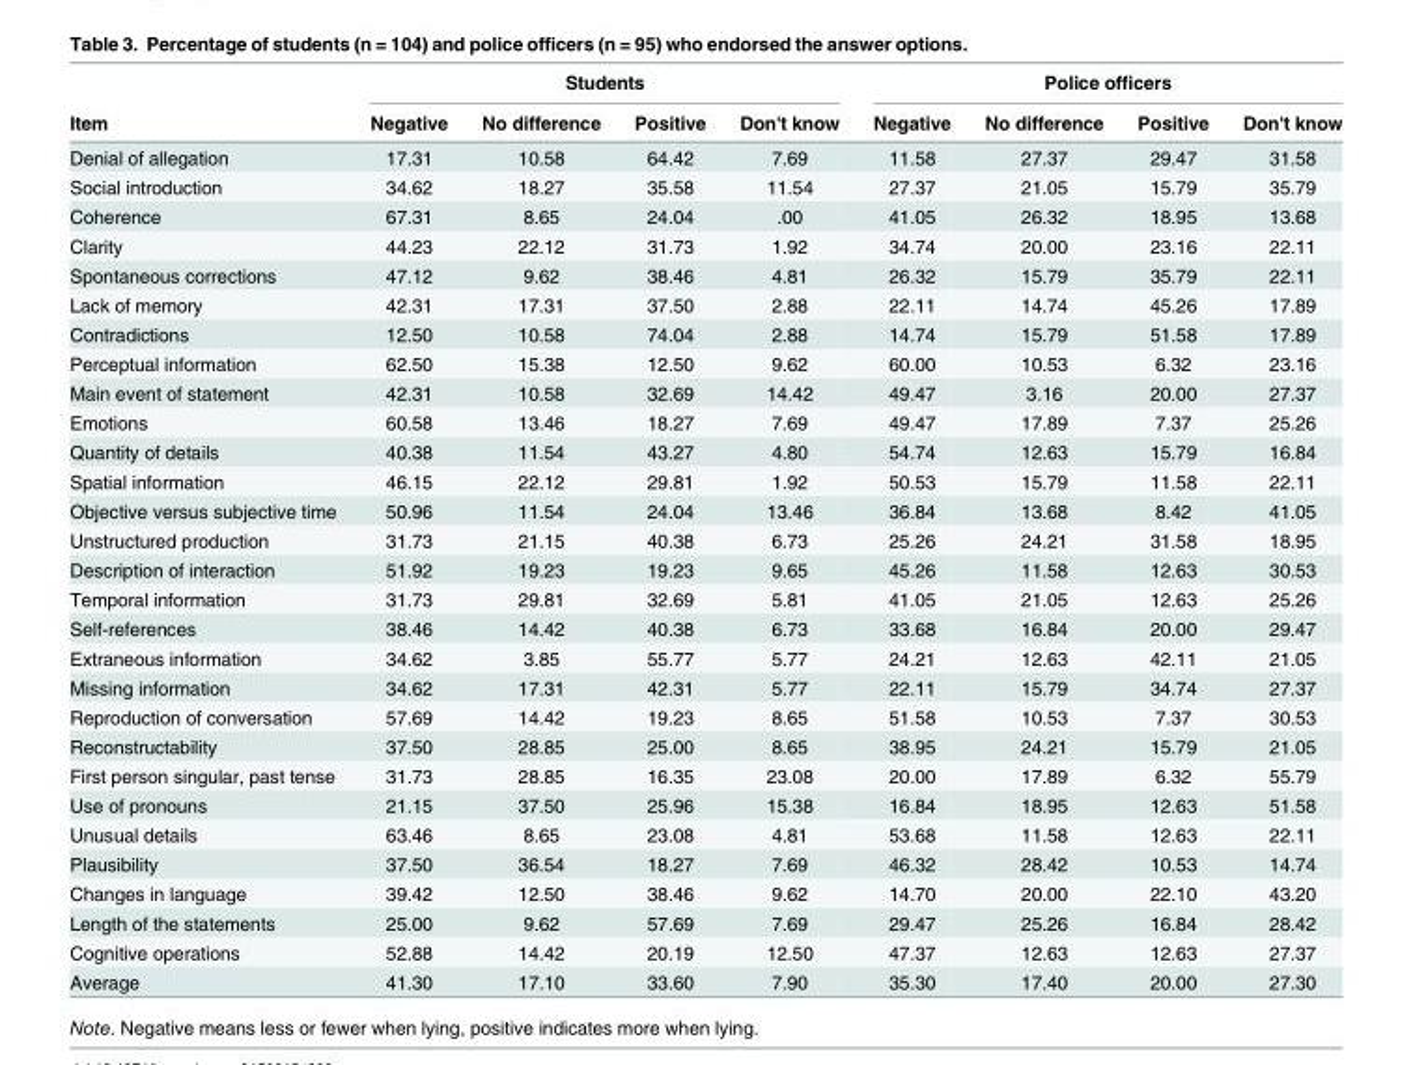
<table><thead><tr><td rowspan="2">Item</td><td colspan="4">Students</td><td colspan="4">Police officers</td></tr><tr><td>Negative</td><td>No difference</td><td>Positive</td><td>Don&#x27;t know</td><td>Negative</td><td>No difference</td><td>Positive</td><td>Don&#x27;t know</td></tr></thead><tbody><tr><td>Denial of allegation</td><td>17.31</td><td>10.58</td><td>64.42</td><td>7.69</td><td>11.58</td><td>27.37</td><td>29.47</td><td>31.58</td></tr><tr><td>Social introduction</td><td>34.62</td><td>18.27</td><td>35.58</td><td>11.54</td><td>27.37</td><td>21.05</td><td>15.79</td><td>35.79</td></tr><tr><td>Coherence</td><td>67.31</td><td>8.65</td><td>24.04</td><td>.00</td><td>41.05</td><td>26.32</td><td>18.95</td><td>13.68</td></tr><tr><td>Clarity</td><td>44.23</td><td>22.12</td><td>31.73</td><td>1.92</td><td>34.74</td><td>20.00</td><td>23.16</td><td>22.11</td></tr><tr><td>Spontaneous corrections</td><td>47.12</td><td>9.62</td><td>38.46</td><td>4.81</td><td>26.32</td><td>15.79</td><td>35.79</td><td>22.11</td></tr><tr><td>Lack of memory</td><td>42.31</td><td>17.31</td><td>37.50</td><td>2.88</td><td>22.11</td><td>14.74</td><td>45.26</td><td>17.89</td></tr><tr><td>Contradictions</td><td>12.50</td><td>10.58</td><td>74.04</td><td>2.88</td><td>14.74</td><td>15.79</td><td>51.58</td><td>17.89</td></tr><tr><td>Perceptual information</td><td>62.50</td><td>15.38</td><td>12.50</td><td>9.62</td><td>60.00</td><td>10.53</td><td>6.32</td><td>23.16</td></tr><tr><td>Main event of statement</td><td>42.31</td><td>10.58</td><td>32.69</td><td>14.42</td><td>49.47</td><td>3.16</td><td>20.00</td><td>27.37</td></tr><tr><td>Emotions</td><td>60.58</td><td>13.46</td><td>18.27</td><td>7.69</td><td>49.47</td><td>17.89</td><td>7.37</td><td>25.26</td></tr><tr><td>Quantity of details</td><td>40.38</td><td>11.54</td><td>43.27</td><td>4.80</td><td>54.74</td><td>12.63</td><td>15.79</td><td>16.84</td></tr><tr><td>Spatial information</td><td>46.15</td><td>22.12</td><td>29.81</td><td>1.92</td><td>50.53</td><td>15.79</td><td>11.58</td><td>22.11</td></tr><tr><td>Objective versus subjective time</td><td>50.96</td><td>11.54</td><td>24.04</td><td>13.46</td><td>36.84</td><td>13.68</td><td>8.42</td><td>41.05</td></tr><tr><td>Unstructured production</td><td>31.73</td><td>21.15</td><td>40.38</td><td>6.73</td><td>25.26</td><td>24.21</td><td>31.58</td><td>18.95</td></tr><tr><td>Description of interaction</td><td>51.92</td><td>19.23</td><td>19.23</td><td>9.65</td><td>45.26</td><td>11.58</td><td>12.63</td><td>30.53</td></tr><tr><td>Temporal information</td><td>31.73</td><td>29.81</td><td>32.69</td><td>5.81</td><td>41.05</td><td>21.05</td><td>12.63</td><td>25.26</td></tr><tr><td>Self-references</td><td>38.46</td><td>14.42</td><td>40.38</td><td>6.73</td><td>33.68</td><td>16.84</td><td>20.00</td><td>29.47</td></tr><tr><td>Extraneous information</td><td>34.62</td><td>3.85</td><td>55.77</td><td>5.77</td><td>24.21</td><td>12.63</td><td>42.11</td><td>21.05</td></tr><tr><td>Missing information</td><td>34.62</td><td>17.31</td><td>42.31</td><td>5.77</td><td>22.11</td><td>15.79</td><td>34.74</td><td>27.37</td></tr><tr><td>Reproduction of conversation</td><td>57.69</td><td>14.42</td><td>19.23</td><td>8.65</td><td>51.58</td><td>10.53</td><td>7.37</td><td>30.53</td></tr><tr><td>Reconstructability</td><td>37.50</td><td>28.85</td><td>25.00</td><td>8.65</td><td>38.95</td><td>24.21</td><td>15.79</td><td>21.05</td></tr><tr><td>First person singular, past tense</td><td>31.73</td><td>28.85</td><td>16.35</td><td>23.08</td><td>20.00</td><td>17.89</td><td>6.32</td><td>55.79</td></tr><tr><td>Use of pronouns</td><td>21.15</td><td>37.50</td><td>25.96</td><td>15.38</td><td>16.84</td><td>18.95</td><td>12.63</td><td>51.58</td></tr><tr><td>Unusual details</td><td>63.46</td><td>8.65</td><td>23.08</td><td>4.81</td><td>53.68</td><td>11.58</td><td>12.63</td><td>22.11</td></tr><tr><td>Plausibility</td><td>37.50</td><td>36.54</td><td>18.27</td><td>7.69</td><td>46.32</td><td>28.42</td><td>10.53</td><td>14.74</td></tr><tr><td>Changes in language</td><td>39.42</td><td>12.50</td><td>38.46</td><td>9.62</td><td>14.70</td><td>20.00</td><td>22.10</td><td>43.20</td></tr><tr><td>Length of the statements</td><td>25.00</td><td>9.62</td><td>57.69</td><td>7.69</td><td>29.47</td><td>25.26</td><td>16.84</td><td>28.42</td></tr><tr><td>Cognitive operations</td><td>52.88</td><td>14.42</td><td>20.19</td><td>12.50</td><td>47.37</td><td>12.63</td><td>12.63</td><td>27.37</td></tr><tr><td>Average</td><td>41.30</td><td>17.10</td><td>33.60</td><td>7.90</td><td>35.30</td><td>17.40</td><td>20.00</td><td>27.30</td></tr></tbody></table>